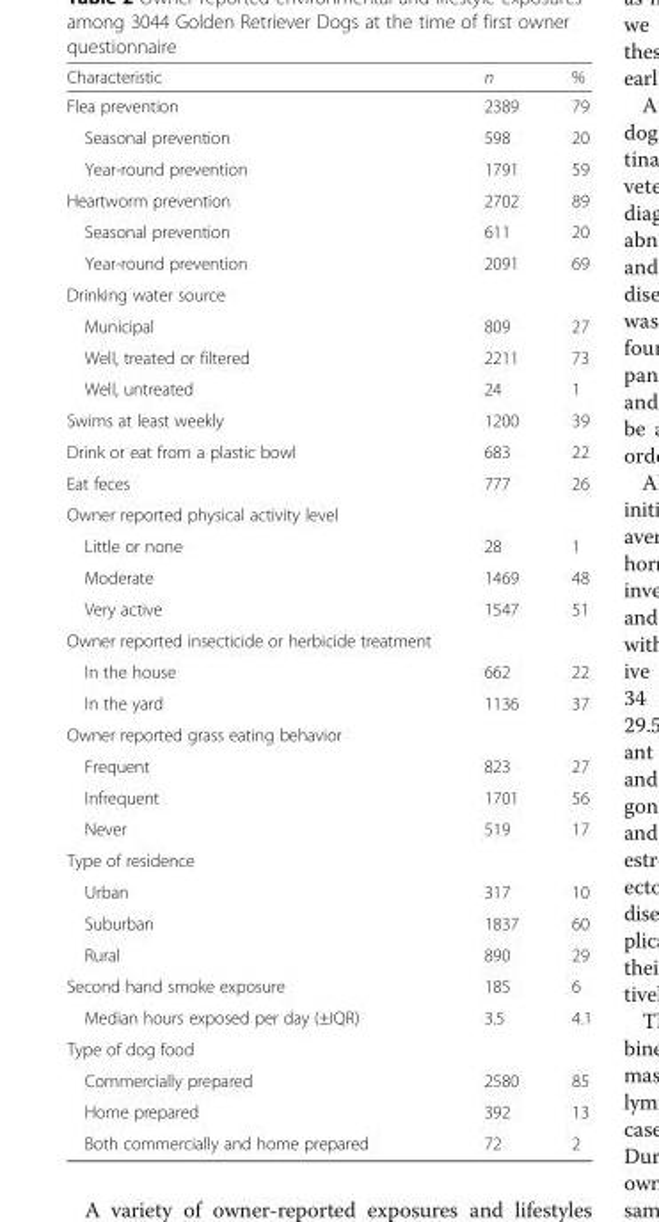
<table><thead><tr><td>Characteristic</td><td>n</td><td>%</td></tr></thead><tbody><tr><td>Flea prevention</td><td>2389</td><td>79</td></tr><tr><td>Seasonal prevention</td><td>598</td><td>20</td></tr><tr><td>Year-round prevention</td><td>1791</td><td>59</td></tr><tr><td>Heartworm prevention</td><td>2702</td><td>89</td></tr><tr><td>Seasonal prevention</td><td>611</td><td>20</td></tr><tr><td>Year-round prevention</td><td>2091</td><td>69</td></tr><tr><td colspan="3">Drinking water source</td></tr><tr><td>Municipal</td><td>809</td><td>27</td></tr><tr><td>Well, treated or filtered</td><td>2211</td><td>73</td></tr><tr><td>Well, untreated</td><td>24</td><td>1</td></tr><tr><td>Swims at least weekly</td><td>1200</td><td>39</td></tr><tr><td>Drink or eat from a plastic bowl</td><td>683</td><td>22</td></tr><tr><td>Eat feces</td><td>777</td><td>26</td></tr><tr><td colspan="3">Owner reported physical activity level</td></tr><tr><td>Little or none</td><td>28</td><td>1</td></tr><tr><td>Moderate</td><td>1469</td><td>48</td></tr><tr><td>Very active</td><td>1547</td><td>51</td></tr><tr><td colspan="3">Owner reported insecticide or herbicide treatment</td></tr><tr><td>In the house</td><td>662</td><td>22</td></tr><tr><td>In the yard</td><td>1136</td><td>37</td></tr><tr><td colspan="3">Owner reported grass eating behavior</td></tr><tr><td>Frequent</td><td>823</td><td>27</td></tr><tr><td>Infrequent</td><td>1701</td><td>56</td></tr><tr><td>Never</td><td>519</td><td>17</td></tr><tr><td colspan="3">Type of residence</td></tr><tr><td>Urban</td><td>317</td><td>10</td></tr><tr><td>Suburban</td><td>1837</td><td>60</td></tr><tr><td>Rural</td><td>890</td><td>29</td></tr><tr><td>Second hand smoke exposure</td><td>185</td><td>6</td></tr><tr><td>Median hours exposed per day (±IQR)</td><td>3.5</td><td>4.1</td></tr><tr><td colspan="3">Type of dog food</td></tr><tr><td>Commercially prepared</td><td>2580</td><td>85</td></tr><tr><td>Home prepared</td><td>392</td><td>13</td></tr><tr><td>Both commercially and home prepared</td><td>72</td><td>2</td></tr></tbody></table>